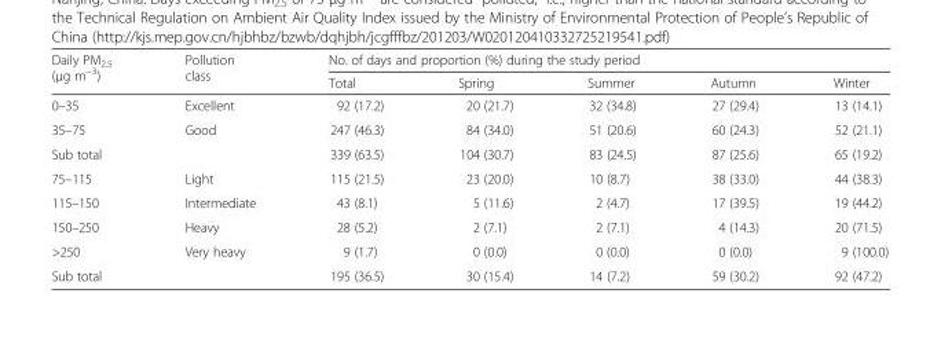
<table><thead><tr><td rowspan="2">Daily PM<sub>2.5</sub> (μg m<sup>−3</sup>)</td><td rowspan="2">Pollution class</td><td colspan="5">No. of days and proportion (%) during the study period</td></tr><tr><td>Total</td><td>Spring</td><td>Summer</td><td>Autumn</td><td>Winter</td></tr></thead><tbody><tr><td>0–35</td><td>Excellent</td><td>92 (17.2)</td><td>20 (21.7)</td><td>32 (34.8)</td><td>27 (29.4)</td><td>13 (14.1)</td></tr><tr><td>35–75</td><td>Good</td><td>247 (46.3)</td><td>84 (34.0)</td><td>51 (20.6)</td><td>60 (24.3)</td><td>52 (21.1)</td></tr><tr><td>Sub total</td><td></td><td>339 (63.5)</td><td>104 (30.7)</td><td>83 (24.5)</td><td>87 (25.6)</td><td>65 (19.2)</td></tr><tr><td>75–115</td><td>Light</td><td>115 (21.5)</td><td>23 (20.0)</td><td>10 (8.7)</td><td>38 (33.0)</td><td>44 (38.3)</td></tr><tr><td>115–150</td><td>Intermediate</td><td>43 (8.1)</td><td>5 (11.6)</td><td>2 (4.7)</td><td>17 (39.5)</td><td>19 (44.2)</td></tr><tr><td>150–250</td><td>Heavy</td><td>28 (5.2)</td><td>2 (7.1)</td><td>2 (7.1)</td><td>4 (14.3)</td><td>20 (71.5)</td></tr><tr><td>&gt;250</td><td>Very heavy</td><td>9 (1.7)</td><td>0 (0.0)</td><td>0 (0.0)</td><td>0 (0.0)</td><td>9 (100.0)</td></tr><tr><td>Sub total</td><td></td><td>195 (36.5)</td><td>30 (15.4)</td><td>14 (7.2)</td><td>59 (30.2)</td><td>92 (47.2)</td></tr></tbody></table>